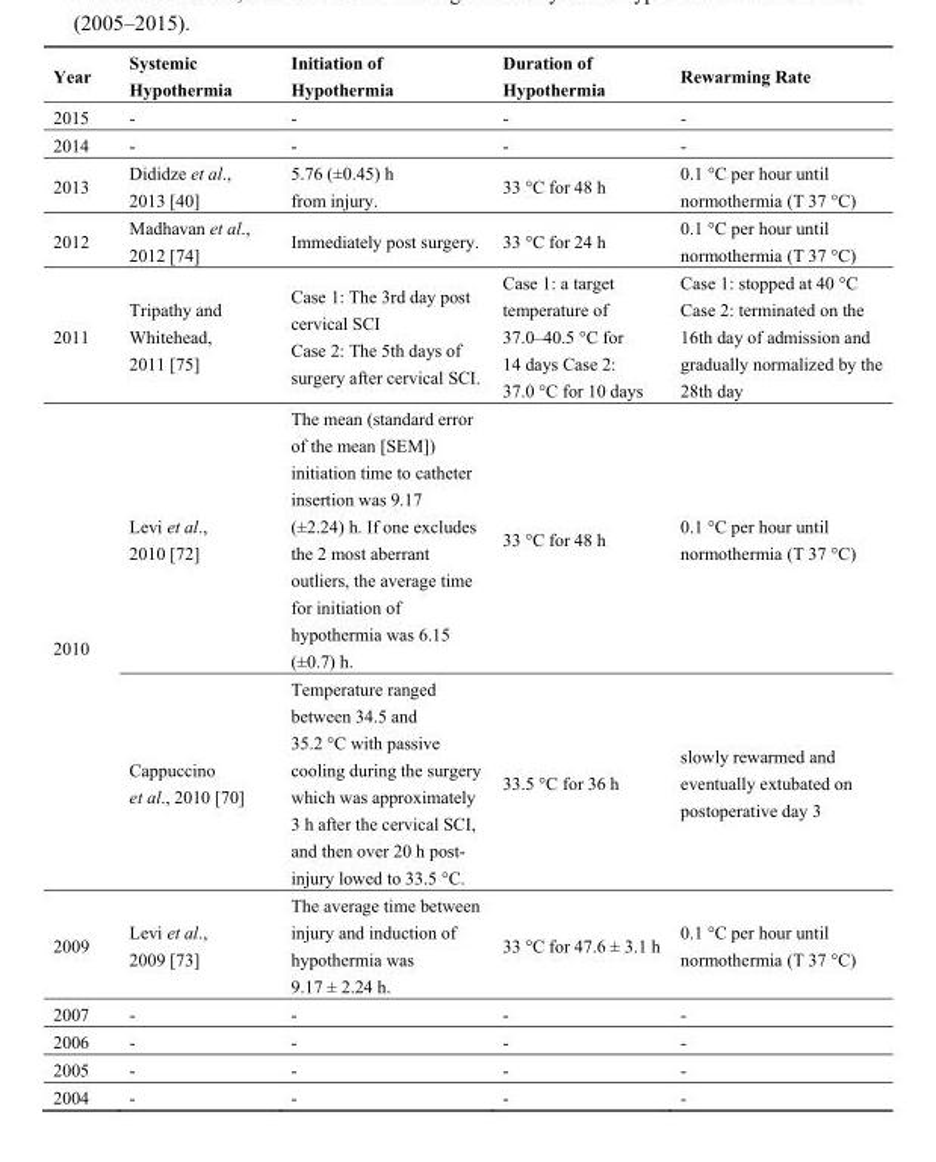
<table><thead><tr><td>Year</td><td>Systemic Hypothermia</td><td>Initiation of Hypothermia</td><td>Duration of Hypothermia</td><td>Rewarming Rate</td></tr></thead><tbody><tr><td>2015</td><td>-</td><td>-</td><td>-</td><td>-</td></tr><tr><td>2014</td><td>-</td><td>-</td><td>-</td><td>-</td></tr><tr><td>2013</td><td>Dididze et al., 2013 [40]</td><td>5.76 (±0.45) h from injury.</td><td>33 °C for 48 h</td><td>0.1 °C per hour until normothermia (T 37 °C)</td></tr><tr><td>2012</td><td>Madhavan et al., 2012 [74]</td><td>Immediately post surgery.</td><td>33 °C for 24 h</td><td>0.1 °C per hour until normothermia (T 37 °C)</td></tr><tr><td>2011</td><td>Tripathy and Whitehead, 2011 [75]</td><td>Case 1: The 3rd day post cervical SCI Case 2: The 5th days of surgery after cervical SCI.</td><td>Case 1: a target temperature of 37.0–40.5 °C for 14 days Case 2: 37.0 °C for 10 days</td><td>Case 1: stopped at 40 °C Case 2: terminated on the 16th day of admission and gradually normalized by the 28th day</td></tr><tr><td rowspan="2">2010</td><td>Levi et al., 2010 [72]</td><td>The mean (standard error of the mean [SEM]) initiation time to catheter insertion was 9.17 (±2.24) h. If one excludes the 2 most aberrant outliers, the average time for initiation of hypothermia was 6.15 (±0.7) h.</td><td>33 °C for 48 h</td><td>0.1 °C per hour until normothermia (T 37 °C)</td></tr><tr><td>Cappuccino et al., 2010 [70]</td><td>Temperature ranged between 34.5 and 35.2 °C with passive cooling during the surgery which was approximately 3 h after the cervical SCI, and then over 20 h post- injury lowed to 33.5 °C.</td><td>33.5 °C for 36 h</td><td>slowly rewarmed and eventually extubated on postoperative day 3</td></tr><tr><td>2009</td><td>Levi et al., 2009 [73]</td><td>The average time between injury and induction of hypothermia was 9.17 ± 2.24 h.</td><td>33 °C for 47.6 ± 3.1 h</td><td>0.1 °C per hour until normothermia (T 37 °C)</td></tr><tr><td>2007</td><td>-</td><td>-</td><td>-</td><td>-</td></tr><tr><td>2006</td><td>-</td><td>-</td><td>-</td><td>-</td></tr><tr><td>2005</td><td>-</td><td>-</td><td>-</td><td>-</td></tr><tr><td>2004</td><td>-</td><td>-</td><td>-</td><td>-</td></tr></tbody></table>